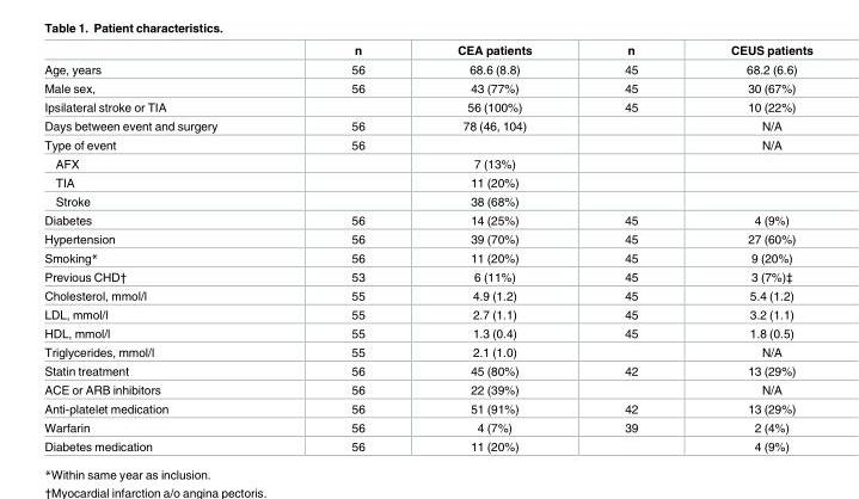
<table><thead><tr><td></td><td>n</td><td>CEA patients</td><td>n</td><td>CEUS patients</td></tr></thead><tbody><tr><td>Age, years</td><td>56</td><td>68.6 (8.8)</td><td>45</td><td>68.2 (6.6)</td></tr><tr><td>Male sex,</td><td>56</td><td>43 (77%)</td><td>45</td><td>30 (67%)</td></tr><tr><td>Ipsilateral stroke or TIA</td><td></td><td>56 (100%)</td><td>45</td><td>10 (22%)</td></tr><tr><td>Days between event and surgery</td><td>56</td><td>78 (46, 104)</td><td></td><td>N/A</td></tr><tr><td>Type of event</td><td>56</td><td></td><td></td><td>N/A</td></tr><tr><td>AFX</td><td></td><td>7 (13%)</td><td></td><td></td></tr><tr><td>TIA</td><td></td><td>11 (20%)</td><td></td><td></td></tr><tr><td>Stroke</td><td></td><td>38 (68%)</td><td></td><td></td></tr><tr><td>Diabetes</td><td>56</td><td>14 (25%)</td><td>45</td><td>4 (9%)</td></tr><tr><td>Hypertension</td><td>56</td><td>39 (70%)</td><td>45</td><td>27 (60%)</td></tr><tr><td>Smoking*</td><td>56</td><td>11 (20%)</td><td>45</td><td>9 (20%)</td></tr><tr><td>Previous CHD†</td><td>53</td><td>6 (11%)</td><td>45</td><td>3 (7%)‡</td></tr><tr><td>Cholesterol, mmol/l</td><td>55</td><td>4.9 (1.2)</td><td>45</td><td>5.4 (1.2)</td></tr><tr><td>LDL, mmol/l</td><td>55</td><td>2.7 (1.1)</td><td>45</td><td>3.2 (1.1)</td></tr><tr><td>HDL, mmol/l</td><td>55</td><td>1.3 (0.4)</td><td>45</td><td>1.8 (0.5)</td></tr><tr><td>Triglycerides, mmol/l</td><td>55</td><td>2.1 (1.0)</td><td></td><td>N/A</td></tr><tr><td>Statin treatment</td><td>56</td><td>45 (80%)</td><td>42</td><td>13 (29%)</td></tr><tr><td>ACE or ARB inhibitors</td><td>56</td><td>22 (39%)</td><td></td><td>N/A</td></tr><tr><td>Anti-platelet medication</td><td>56</td><td>51 (91%)</td><td>42</td><td>13 (29%)</td></tr><tr><td>Warfarin</td><td>56</td><td>4 (7%)</td><td>39</td><td>2 (4%)</td></tr><tr><td>Diabetes medication</td><td>56</td><td>11 (20%)</td><td></td><td>4 (9%)</td></tr></tbody></table>